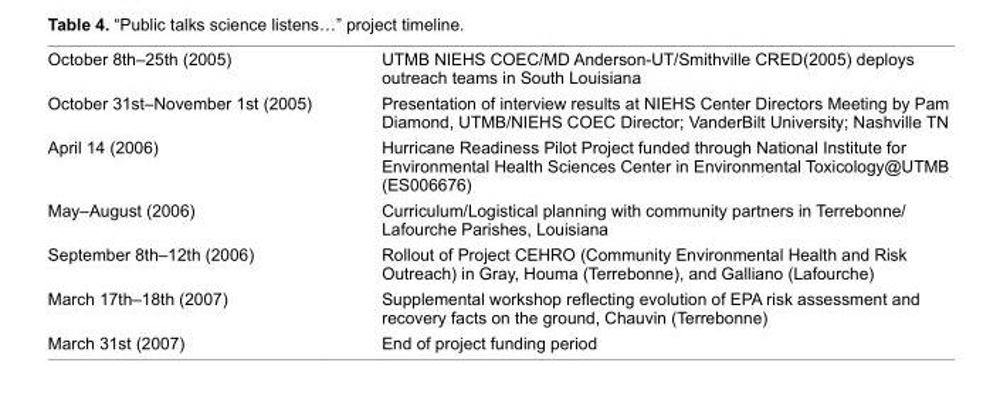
<table><tbody><tr><td>october 8th–25th (2005)</td><td>UTMB NIEHs CoEC/MD Anderson-UT/smithville CrED(2005) deploys outreach teams in south Louisiana</td></tr><tr><td>october 31st–November 1st (2005)</td><td>presentation of interview results at NIEHs Center Directors Meeting by pam Diamond, UTMB/NIEHs CoEC Director; VanderBilt University; Nashville TN</td></tr><tr><td>April 14 (2006)</td><td>Hurricane readiness pilot project funded through National Institute for Environmental Health sciences Center in Environmental Toxicology@UTMB (Es006676)</td></tr><tr><td>May–August (2006)</td><td>Curriculum/Logistical planning with community partners in Terrebonne/ Lafourche parishes, Louisiana</td></tr><tr><td>september 8th–12th (2006)</td><td>rollout of project CEHro (Community Environmental Health and risk outreach) in Gray, Houma (Terrebonne), and Galliano (Lafourche)</td></tr><tr><td>March 17th–18th (2007)</td><td>Supplemental workshop reflecting evolution of EPA risk assessment and recovery facts on the ground, Chauvin (Terrebonne)</td></tr><tr><td>March 31st (2007)</td><td>End of project funding period</td></tr></tbody></table>